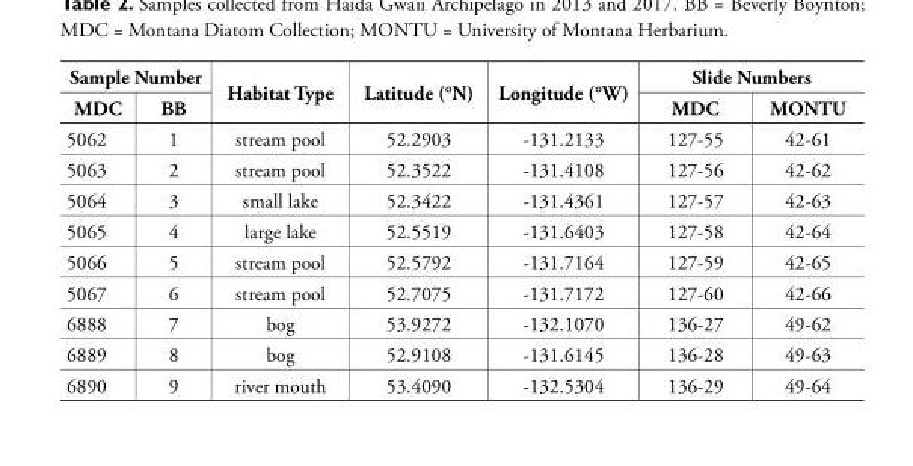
<table><thead><tr><td colspan="2">Sample Number</td><td rowspan="2">Habitat Type</td><td rowspan="2">Latitude (°N)</td><td rowspan="2">Longitude (°W)</td><td colspan="2">Slide Numbers</td></tr><tr><td>MDC</td><td>BB</td><td>MDC</td><td>MONTU</td></tr></thead><tbody><tr><td>5062</td><td>1</td><td>stream pool</td><td colspan="2">52.2903 -131.2133</td><td>127-55</td><td>42-61</td></tr><tr><td>5063</td><td>2</td><td>stream pool</td><td colspan="2">52.3522 -131.4108</td><td>127-56</td><td>42-62</td></tr><tr><td>5064</td><td>3</td><td>small lake</td><td colspan="2">52.3422 -131.4361</td><td>127-57</td><td>42-63</td></tr><tr><td>5065</td><td>4</td><td>large lake</td><td colspan="2">52.5519 -131.6403</td><td>127-58</td><td>42-64</td></tr><tr><td>5066</td><td>5</td><td>stream pool</td><td colspan="2">52.5792 -131.7164</td><td>127-59</td><td>42-65</td></tr><tr><td>5067</td><td>6</td><td>stream pool</td><td colspan="2">52.7075 -131.7172</td><td>127-60</td><td>42-66</td></tr><tr><td>6888</td><td>7</td><td>bog</td><td colspan="2">53.9272 -132.1070</td><td>136-27</td><td>49-62</td></tr><tr><td>6889</td><td>8</td><td>bog</td><td colspan="2">52.9108 -131.6145</td><td>136-28</td><td>49-63</td></tr><tr><td>6890</td><td>9</td><td>river mouth</td><td colspan="2">53.4090 -132.5304</td><td>136-29</td><td>49-64</td></tr></tbody></table>